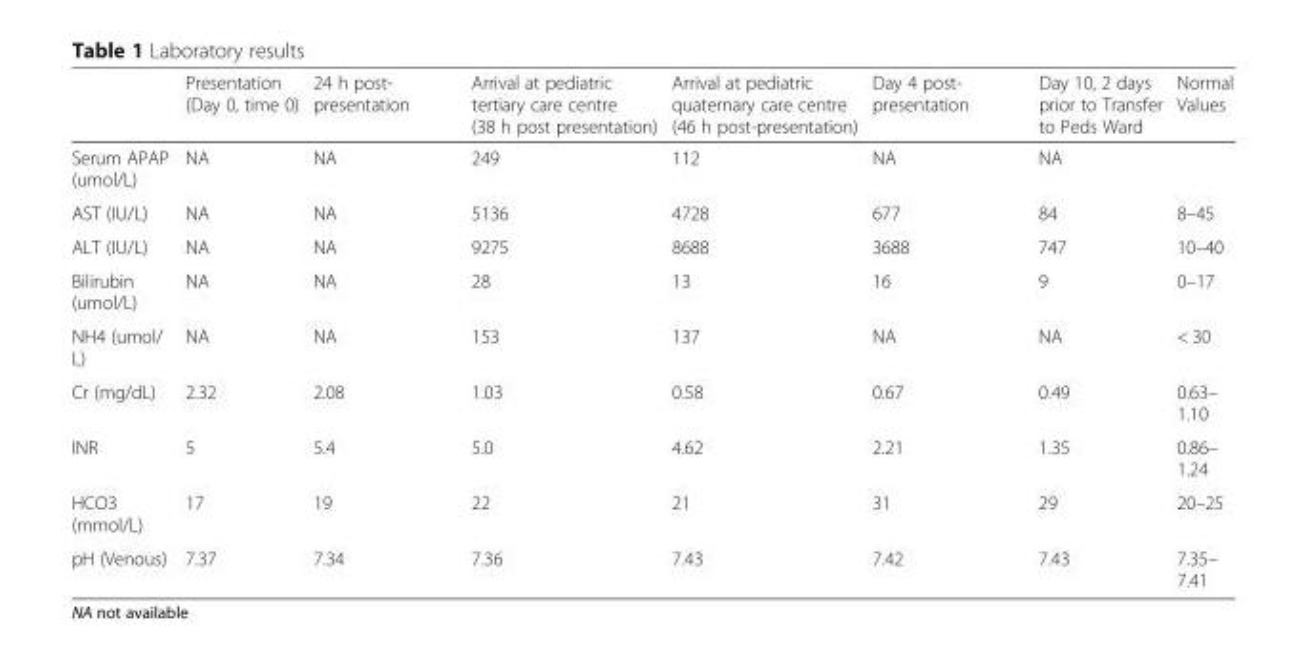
<table><thead><tr><td></td><td>Presentation (Day 0, time 0)</td><td>24 h post- presentation</td><td>Arrival at pediatric tertiary care centre (38 h post presentation)</td><td>Arrival at pediatric quaternary care centre (46 h post-presentation)</td><td>Day 4 post- presentation</td><td>Day 10, 2 days prior to Transfer to Peds Ward</td><td>Normal Values</td></tr></thead><tbody><tr><td>Serum APAP (umol/L)</td><td>NA</td><td>NA</td><td>249</td><td>112</td><td>NA</td><td>NA</td><td></td></tr><tr><td>AST (IU/L)</td><td>NA</td><td>NA</td><td>5136</td><td>4728</td><td>677</td><td>84</td><td>8–45</td></tr><tr><td>ALT (IU/L)</td><td>NA</td><td>NA</td><td>9275</td><td>8688</td><td>3688</td><td>747</td><td>10–40</td></tr><tr><td>Bilirubin (umol/L)</td><td>NA</td><td>NA</td><td>28</td><td>13</td><td>16</td><td>9</td><td>0–17</td></tr><tr><td>NH4 (umol/ L)</td><td>NA</td><td>NA</td><td>153</td><td>137</td><td>NA</td><td>NA</td><td>&lt; 30</td></tr><tr><td>Cr (mg/dL)</td><td>2.32</td><td>2.08</td><td>1.03</td><td>0.58</td><td>0.67</td><td>0.49</td><td>0.63– 1.10</td></tr><tr><td>INR</td><td>5</td><td>5.4</td><td>5.0</td><td>4.62</td><td>2.21</td><td>1.35</td><td>0.86– 1.24</td></tr><tr><td>HCO3 (mmol/L)</td><td>17</td><td>19</td><td>22</td><td>21</td><td>31</td><td>29</td><td>20–25</td></tr><tr><td>pH (Venous)</td><td>7.37</td><td>7.34</td><td>7.36</td><td>7.43</td><td>7.42</td><td>7.43</td><td>7.35– 7.41</td></tr></tbody></table>